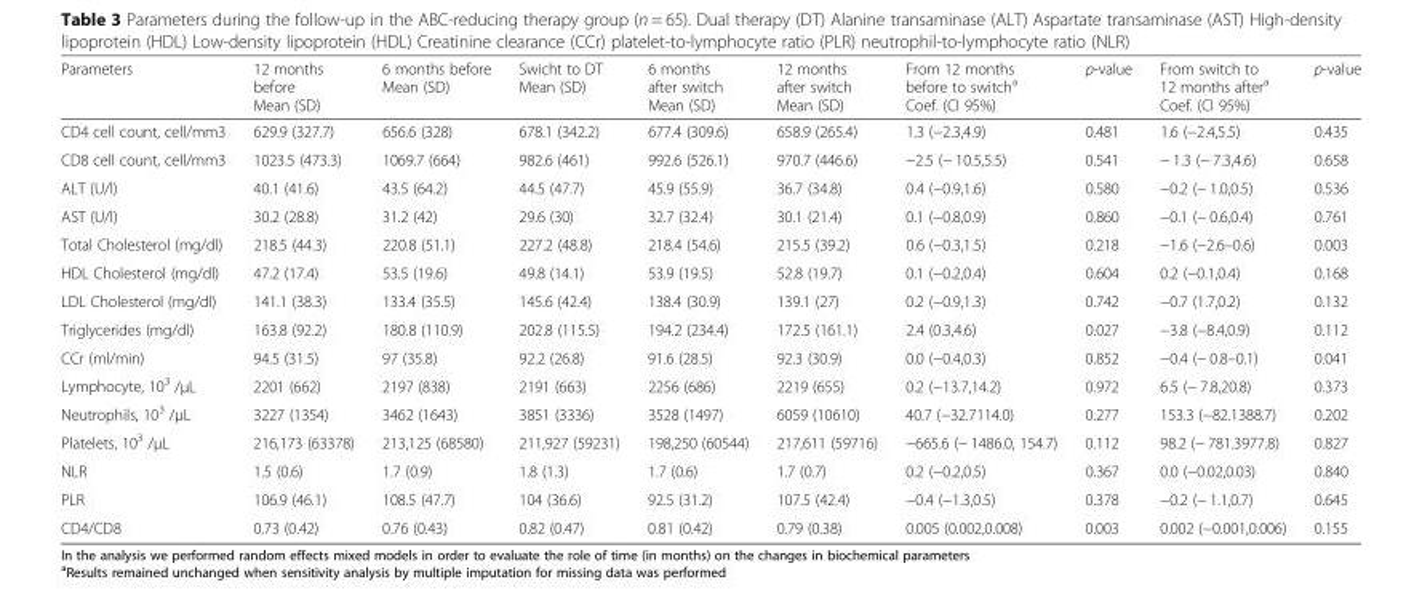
<table><thead><tr><td>Parameters</td><td>12 months before Mean (SD)</td><td>6 months before Mean (SD)</td><td>Swicht to DT Mean (SD)</td><td>6 months after switch Mean (SD)</td><td>12 months after switch Mean (SD)</td><td>From 12 months before to switch<sup>a</sup> Coef. (CI 95%)</td><td>p-value</td><td>From switch to 12 months after<sup>a</sup> Coef. (CI 95%)</td><td>p-value</td></tr></thead><tbody><tr><td>CD4 cell count, cell/mm3</td><td>629.9 (327.7)</td><td>656.6 (328)</td><td>678.1 (342.2)</td><td>677.4 (309.6)</td><td>658.9 (265.4)</td><td>1.3 (−2.3,4.9)</td><td>0.481</td><td>1.6 (−2.4,5.5)</td><td>0.435</td></tr><tr><td>CD8 cell count, cell/mm3</td><td>1023.5 (473.3)</td><td>1069.7 (664)</td><td>982.6 (461)</td><td>992.6 (526.1)</td><td>970.7 (446.6)</td><td>−2.5 (− 10.5,5.5)</td><td>0.541</td><td>− 1.3 (− 7.3,4.6)</td><td>0.658</td></tr><tr><td>ALT (U/l)</td><td>40.1 (41.6)</td><td>43.5 (64.2)</td><td>44.5 (47.7)</td><td>45.9 (55.9)</td><td>36.7 (34.8)</td><td>0.4 (−0.9,1.6)</td><td>0.580</td><td>−0.2 (− 1.0,0.5)</td><td>0.536</td></tr><tr><td>AST (U/l)</td><td>30.2 (28.8)</td><td>31.2 (42)</td><td>29.6 (30)</td><td>32.7 (32.4)</td><td>30.1 (21.4)</td><td>0.1 (−0.8,0.9)</td><td>0.860</td><td>−0.1 (− 0.6,0.4)</td><td>0.761</td></tr><tr><td>Total Cholesterol (mg/dl)</td><td>218.5 (44.3)</td><td>220.8 (51.1)</td><td>227.2 (48.8)</td><td>218.4 (54.6)</td><td>215.5 (39.2)</td><td>0.6 (−0.3,1.5)</td><td>0.218</td><td>−1.6 (−2.6–0.6)</td><td>0.003</td></tr><tr><td>HDL Cholesterol (mg/dl)</td><td>47.2 (17.4)</td><td>53.5 (19.6)</td><td>49.8 (14.1)</td><td>53.9 (19.5)</td><td>52.8 (19.7)</td><td>0.1 (−0.2,0.4)</td><td>0.604</td><td>0.2 (−0.1,0.4)</td><td>0.168</td></tr><tr><td>LDL Cholesterol (mg/dl)</td><td>141.1 (38.3)</td><td>133.4 (35.5)</td><td>145.6 (42.4)</td><td>138.4 (30.9)</td><td>139.1 (27)</td><td>0.2 (−0.9,1.3)</td><td>0.742</td><td>−0.7 (1.7,0.2)</td><td>0.132</td></tr><tr><td>Triglycerides (mg/dl)</td><td>163.8 (92.2)</td><td>180.8 (110.9)</td><td>202.8 (115.5)</td><td>194.2 (234.4)</td><td>172.5 (161.1)</td><td>2.4 (0.3,4.6)</td><td>0.027</td><td>−3.8 (−8.4,0.9)</td><td>0.112</td></tr><tr><td>CCr (ml/min)</td><td>94.5 (31.5)</td><td>97 (35.8)</td><td>92.2 (26.8)</td><td>91.6 (28.5)</td><td>92.3 (30.9)</td><td>0.0 (−0.4,0.3)</td><td>0.852</td><td>−0.4 (− 0.8–0.1)</td><td>0.041</td></tr><tr><td>Lymphocyte, 10<sup>3</sup> /μL</td><td>2201 (662)</td><td>2197 (838)</td><td>2191 (663)</td><td>2256 (686)</td><td>2219 (655)</td><td>0.2 (−13.7,14.2)</td><td>0.972</td><td>6.5 (− 7.8,20.8)</td><td>0.373</td></tr><tr><td>Neutrophils, 10<sup>3</sup> /μL</td><td>3227 (1354)</td><td>3462 (1643)</td><td>3851 (3336)</td><td>3528 (1497)</td><td>6059 (10610)</td><td>40.7 (−32.7114.0)</td><td>0.277</td><td>153.3 (−82.1388.7)</td><td>0.202</td></tr><tr><td>Platelets, 10<sup>3</sup> /μL</td><td>216,173 (63378)</td><td>213,125 (68580)</td><td>211,927 (59231)</td><td>198,250 (60544)</td><td>217,611 (59716)</td><td>−665.6 (− 1486.0, 154.7)</td><td>0.112</td><td>98.2 (− 781.3977.8)</td><td>0.827</td></tr><tr><td>NLR</td><td>1.5 (0.6)</td><td>1.7 (0.9)</td><td>1.8 (1.3)</td><td>1.7 (0.6)</td><td>1.7 (0.7)</td><td>0.2 (−0.2,0.5)</td><td>0.367</td><td>0.0 (−0.02,0.03)</td><td>0.840</td></tr><tr><td>PLR</td><td>106.9 (46.1)</td><td>108.5 (47.7)</td><td>104 (36.6)</td><td>92.5 (31.2)</td><td>107.5 (42.4)</td><td>−0.4 (−1.3,0.5)</td><td>0.378</td><td>−0.2 (− 1.1,0.7)</td><td>0.645</td></tr><tr><td>CD4/CD8</td><td>0.73 (0.42)</td><td>0.76 (0.43)</td><td>0.82 (0.47)</td><td>0.81 (0.42)</td><td>0.79 (0.38)</td><td>0.005 (0.002,0.008)</td><td>0.003</td><td>0.002 (−0.001,0.006)</td><td>0.155</td></tr></tbody></table>